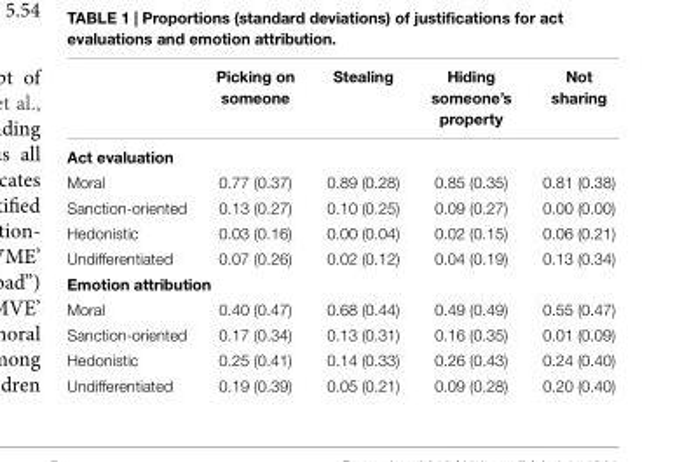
<table><thead><tr><td></td><td>Picking on someone</td><td>Stealing</td><td>Hiding someone’s property</td><td>Not sharing</td></tr></thead><tbody><tr><td colspan="5">Act evaluation</td></tr><tr><td>Moral</td><td>0.77 (0.37)</td><td>0.89 (0.28)</td><td>0.85 (0.35)</td><td>0.81 (0.38)</td></tr><tr><td>Sanction-oriented</td><td>0.13 (0.27)</td><td>0.10 (0.25)</td><td>0.09 (0.27)</td><td>0.00 (0.00)</td></tr><tr><td>Hedonistic</td><td>0.03 (0.16)</td><td>0.00 (0.04)</td><td>0.02 (0.15)</td><td>0.06 (0.21)</td></tr><tr><td>Undifferentiated</td><td>0.07 (0.26)</td><td>0.02 (0.12)</td><td>0.04 (0.19)</td><td>0.13 (0.34)</td></tr><tr><td colspan="5">Emotion attribution</td></tr><tr><td>Moral</td><td>0.40 (0.47)</td><td>0.68 (0.44)</td><td>0.49 (0.49)</td><td>0.55 (0.47)</td></tr><tr><td>Sanction-oriented</td><td>0.17 (0.34)</td><td>0.13 (0.31)</td><td>0.16 (0.35)</td><td>0.01 (0.09)</td></tr><tr><td>Hedonistic</td><td>0.25 (0.41)</td><td>0.14 (0.33)</td><td>0.26 (0.43)</td><td>0.24 (0.40)</td></tr><tr><td>Undifferentiated</td><td>0.19 (0.39)</td><td>0.05 (0.21)</td><td>0.09 (0.28)</td><td>0.20 (0.40)</td></tr></tbody></table>